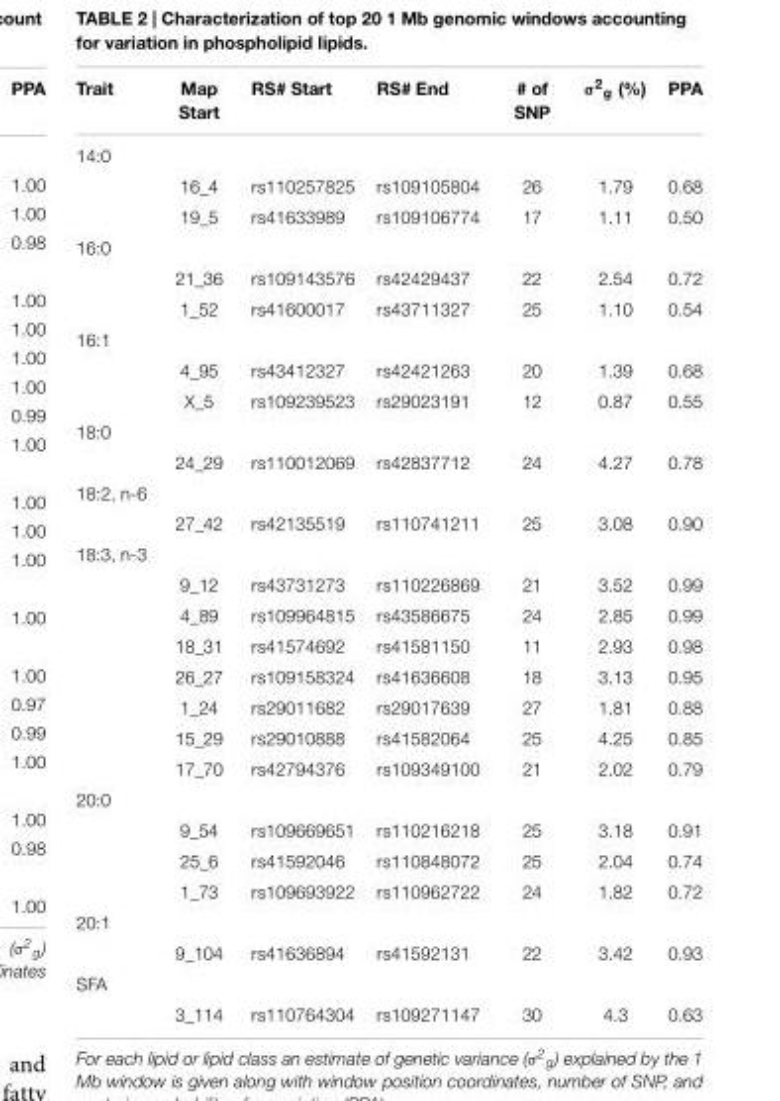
<table><thead><tr><td>Trait</td><td>Map Start</td><td>RS# Start</td><td>RS# End</td><td># of SNP</td><td>σ<sup>2</sup><sub>g</sub> (%)</td><td>PPA</td></tr></thead><tbody><tr><td colspan="7">14:0</td></tr><tr><td></td><td>16_4</td><td>rs110257825</td><td>rs109105804</td><td>26</td><td>1.79</td><td>0.68</td></tr><tr><td></td><td>19_5</td><td>rs41633989</td><td>rs109106774</td><td>17</td><td>1.11</td><td>0.50</td></tr><tr><td colspan="7">16:0</td></tr><tr><td></td><td>21_36</td><td>rs109143576</td><td>rs42429437</td><td>22</td><td>2.54</td><td>0.72</td></tr><tr><td></td><td>1_52</td><td>rs41600017</td><td>rs43711327</td><td>25</td><td>1.10</td><td>0.54</td></tr><tr><td colspan="7">16:1</td></tr><tr><td></td><td>4_95</td><td>rs43412327</td><td>rs42421263</td><td>20</td><td>1.39</td><td>0.68</td></tr><tr><td></td><td>X_5</td><td>rs109239523</td><td>rs29023191</td><td>12</td><td>0.87</td><td>0.55</td></tr><tr><td colspan="7">18:0</td></tr><tr><td></td><td>24_29</td><td>rs110012069</td><td>rs42837712</td><td>24</td><td>4.27</td><td>0.78</td></tr><tr><td colspan="7">18:2, n-6</td></tr><tr><td></td><td>27_42</td><td>rs42135519</td><td>rs110741211</td><td>25</td><td>3.08</td><td>0.90</td></tr><tr><td colspan="7">18:3, n-3</td></tr><tr><td></td><td>9_12</td><td>rs43731273</td><td>rs110226869</td><td>21</td><td>3.52</td><td>0.99</td></tr><tr><td></td><td>4_89</td><td>rs109964815</td><td>rs43586675</td><td>24</td><td>2.85</td><td>0.99</td></tr><tr><td></td><td>18_31</td><td>rs41574692</td><td>rs41581150</td><td>11</td><td>2.93</td><td>0.98</td></tr><tr><td></td><td>26_27</td><td>rs109158324</td><td>rs41636608</td><td>18</td><td>3.13</td><td>0.95</td></tr><tr><td></td><td>1_24</td><td>rs29011682</td><td>rs29017639</td><td>27</td><td>1.81</td><td>0.88</td></tr><tr><td></td><td>15_29</td><td>rs29010888</td><td>rs41582064</td><td>25</td><td>4.25</td><td>0.85</td></tr><tr><td></td><td>17_70</td><td>rs42794376</td><td>rs109349100</td><td>21</td><td>2.02</td><td>0.79</td></tr><tr><td colspan="7">20:0</td></tr><tr><td></td><td>9_54</td><td>rs109669651</td><td>rs110216218</td><td>25</td><td>3.18</td><td>0.91</td></tr><tr><td></td><td>25_6</td><td>rs41592046</td><td>rs110848072</td><td>25</td><td>2.04</td><td>0.74</td></tr><tr><td></td><td>1_73</td><td>rs109693922</td><td>rs110962722</td><td>24</td><td>1.82</td><td>0.72</td></tr><tr><td colspan="7">20:1</td></tr><tr><td></td><td>9_104</td><td>rs41636894</td><td>rs41592131</td><td>22</td><td>3.42</td><td>0.93</td></tr><tr><td colspan="7">SFA</td></tr><tr><td></td><td>3_114</td><td>rs110764304</td><td>rs109271147</td><td>30</td><td>4.3</td><td>0.63</td></tr></tbody></table>